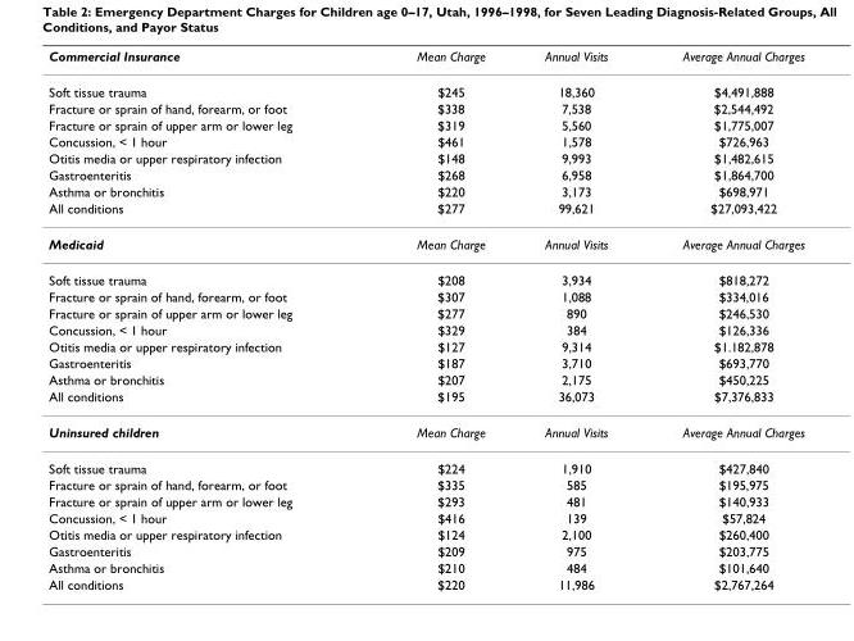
<table><thead><tr><td>Commercial Insurance</td><td>Mean Charge</td><td>Annual Visits</td><td>Average Annual Charges</td></tr></thead><tbody><tr><td>Soft tissue trauma</td><td>$245</td><td>18,360</td><td>$4,491,888</td></tr><tr><td>Fracture or sprain of hand, forearm, or foot</td><td>$338</td><td>7,538</td><td>$2,544,492</td></tr><tr><td>Fracture or sprain of upper arm or lower leg</td><td>$319</td><td>5,560</td><td>$1,775,007</td></tr><tr><td>Concussion, &lt; 1 hour</td><td>$461</td><td>1,578</td><td>$726,963</td></tr><tr><td>Otitis media or upper respiratory infection</td><td>$148</td><td>9,993</td><td>$1,482,615</td></tr><tr><td>Gastroenteritis</td><td>$268</td><td>6,958</td><td>$1,864,700</td></tr><tr><td>Asthma or bronchitis</td><td>$220</td><td>3,173</td><td>$698,971</td></tr><tr><td>All conditions</td><td>$277</td><td>99,621</td><td>$27,093,422</td></tr><tr><td>Medicaid</td><td>Mean Charge</td><td>Annual Visits</td><td>Average Annual Charges</td></tr><tr><td>Soft tissue trauma</td><td>$208</td><td>3,934</td><td>$818,272</td></tr><tr><td>Fracture or sprain of hand, forearm, or foot</td><td>$307</td><td>1,088</td><td>$334,016</td></tr><tr><td>Fracture or sprain of upper arm or lower leg</td><td>$277</td><td>890</td><td>$246,530</td></tr><tr><td>Concussion, &lt; 1 hour</td><td>$329</td><td>384</td><td>$126,336</td></tr><tr><td>Otitis media or upper respiratory infection</td><td>$127</td><td>9,314</td><td>$1.182,878</td></tr><tr><td>Gastroenteritis</td><td>$187</td><td>3,710</td><td>$693,770</td></tr><tr><td>Asthma or bronchitis</td><td>$207</td><td>2,175</td><td>$450,225</td></tr><tr><td>All conditions</td><td>$195</td><td>36,073</td><td>$7,376,833</td></tr><tr><td>Uninsured children</td><td>Mean Charge</td><td>Annual Visits</td><td>Average Annual Charges</td></tr><tr><td>Soft tissue trauma</td><td>$224</td><td>1,910</td><td>$427,840</td></tr><tr><td>Fracture or sprain of hand, forearm, or foot</td><td>$335</td><td>585</td><td>$195,975</td></tr><tr><td>Fracture or sprain of upper arm or lower leg</td><td>$293</td><td>481</td><td>$140,933</td></tr><tr><td>Concussion, &lt; 1 hour</td><td>$416</td><td>139</td><td>$57,824</td></tr><tr><td>Otitis media or upper respiratory infection</td><td>$124</td><td>2,100</td><td>$260,400</td></tr><tr><td>Gastroenteritis</td><td>$209</td><td>975</td><td>$203,775</td></tr><tr><td>Asthma or bronchitis</td><td>$210</td><td>484</td><td>$101,640</td></tr><tr><td>All conditions</td><td>$220</td><td>11,986</td><td>$2,767,264</td></tr></tbody></table>